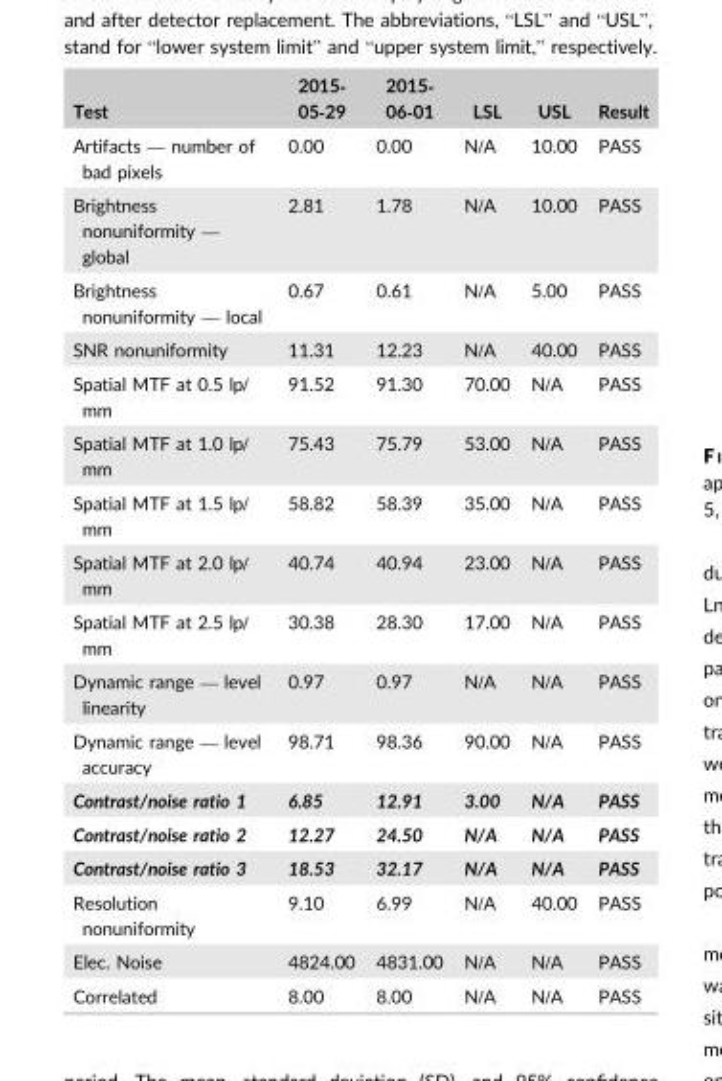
<table><thead><tr><td>Test</td><td>2015‐ 05‐29</td><td>2015‐ 06‐01</td><td>LSL</td><td>USL</td><td>Result</td></tr></thead><tbody><tr><td>Artifacts — number of bad pixels</td><td>0.00</td><td>0.00</td><td>N/A</td><td>10.00</td><td>PASS</td></tr><tr><td>Brightness nonuniformity — global</td><td>2.81</td><td>1.78</td><td>N/A</td><td>10.00</td><td>PASS</td></tr><tr><td>Brightness nonuniformity — local</td><td>0.67</td><td>0.61</td><td>N/A</td><td>5.00</td><td>PASS</td></tr><tr><td>SNR nonuniformity</td><td>11.31</td><td>12.23</td><td>N/A</td><td>40.00</td><td>PASS</td></tr><tr><td>Spatial MTF at 0.5 lp/ mm</td><td>91.52</td><td>91.30</td><td>70.00</td><td>N/A</td><td>PASS</td></tr><tr><td>Spatial MTF at 1.0 lp/ mm</td><td>75.43</td><td>75.79</td><td>53.00</td><td>N/A</td><td>PASS</td></tr><tr><td>Spatial MTF at 1.5 lp/ mm</td><td>58.82</td><td>58.39</td><td>35.00</td><td>N/A</td><td>PASS</td></tr><tr><td>Spatial MTF at 2.0 lp/ mm</td><td>40.74</td><td>40.94</td><td>23.00</td><td>N/A</td><td>PASS</td></tr><tr><td>Spatial MTF at 2.5 lp/ mm</td><td>30.38</td><td>28.30</td><td>17.00</td><td>N/A</td><td>PASS</td></tr><tr><td>Dynamic range — level linearity</td><td>0.97</td><td>0.97</td><td>N/A</td><td>N/A</td><td>PASS</td></tr><tr><td>Dynamic range — level accuracy</td><td>98.71</td><td>98.36</td><td>90.00</td><td>N/A</td><td>PASS</td></tr><tr><td>Contrast/noise ratio 1</td><td>6.85</td><td>12.91</td><td>3.00</td><td>N/A</td><td>PASS</td></tr><tr><td>Contrast/noise ratio 2</td><td>12.27</td><td>24.50</td><td>N/A</td><td>N/A</td><td>PASS</td></tr><tr><td>Contrast/noise ratio 3</td><td>18.53</td><td>32.17</td><td>N/A</td><td>N/A</td><td>PASS</td></tr><tr><td>Resolution nonuniformity</td><td>9.10</td><td>6.99</td><td>N/A</td><td>40.00</td><td>PASS</td></tr><tr><td>Elec. Noise</td><td>4824.00</td><td>4831.00</td><td>N/A</td><td>N/A</td><td>PASS</td></tr><tr><td>Correlated</td><td>8.00</td><td>8.00</td><td>N/A</td><td>N/A</td><td>PASS</td></tr></tbody></table>